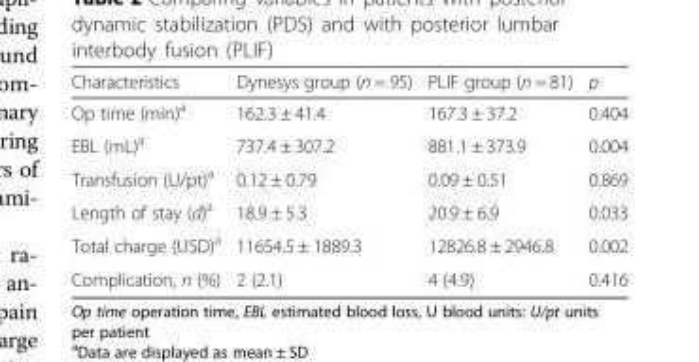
<table><thead><tr><td>Characteristics</td><td>Dynesys group (n = 95)</td><td>PLIF group (n = 81)</td><td>p</td></tr></thead><tbody><tr><td>Op time (min)<sup>a</sup></td><td>162.3 ± 41.4</td><td>167.3 ± 37.2</td><td>0.404</td></tr><tr><td>EBL (mL)<sup>a</sup></td><td>737.4 ± 307.2</td><td>881.1 ± 373.9</td><td>0.004</td></tr><tr><td>Transfusion (U/pt)<sup>a</sup></td><td>0.12 ± 0.79</td><td>0.09 ± 0.51</td><td>0.869</td></tr><tr><td>Length of stay (d)<sup>a</sup></td><td>18.9 ± 5.3</td><td>20.9 ± 6.9</td><td>0.033</td></tr><tr><td>Total charge (USD)<sup>a</sup></td><td>11654.5 ± 1889.3</td><td>12826.8 ± 2946.8</td><td>0.002</td></tr><tr><td>Complication, n (%)</td><td>2 (2.1)</td><td>4 (4.9)</td><td>0.416</td></tr></tbody></table>